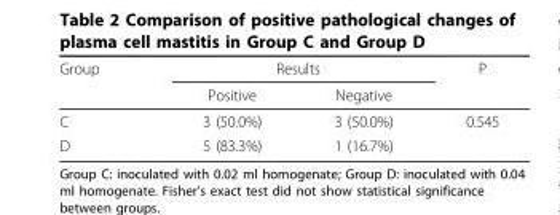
<table><thead><tr><td rowspan="2">Group</td><td colspan="2">Results</td><td rowspan="2">P</td></tr><tr><td>Positive</td><td>Negative</td></tr></thead><tbody><tr><td>C</td><td>3 (50.0%)</td><td>3 (50.0%)</td><td>0.545</td></tr><tr><td>D</td><td>5 (83.3%)</td><td>1 (16.7%)</td><td></td></tr></tbody></table>